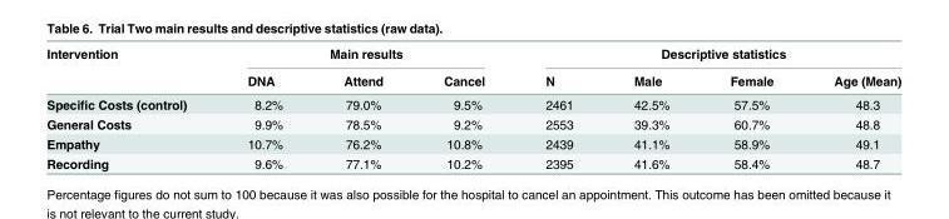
<table><thead><tr><td rowspan="2">Intervention</td><td colspan="3">Main results</td><td colspan="4">Descriptive statistics</td></tr><tr><td>DNA</td><td>Attend</td><td>Cancel</td><td>N</td><td>Male</td><td>Female</td><td>Age (Mean)</td></tr></thead><tbody><tr><td>Specific Costs (control)</td><td>8.2%</td><td>79.0%</td><td>9.5%</td><td>2461</td><td>42.5%</td><td>57.5%</td><td>48.3</td></tr><tr><td>General Costs</td><td>9.9%</td><td>78.5%</td><td>9.2%</td><td>2553</td><td>39.3%</td><td>60.7%</td><td>48.8</td></tr><tr><td>Empathy</td><td>10.7%</td><td>76.2%</td><td>10.8%</td><td>2439</td><td>41.1%</td><td>58.9%</td><td>49.1</td></tr><tr><td>Recording</td><td>9.6%</td><td>77.1%</td><td>10.2%</td><td>2395</td><td>41.6%</td><td>58.4%</td><td>48.7</td></tr></tbody></table>